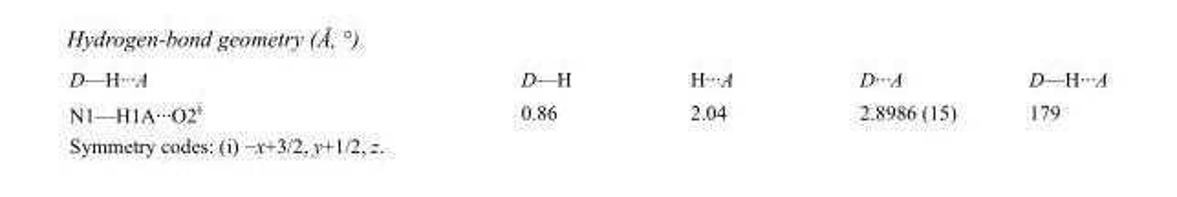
<table><tbody><tr><td>D—H···A</td><td>D—H</td><td>H···A</td><td>D···A</td><td>D—H···A</td></tr><tr><td>N1—H1A···O2<sup>i</sup></td><td>0.86</td><td>2.04</td><td>2.8986 (15)</td><td>179</td></tr></tbody></table>